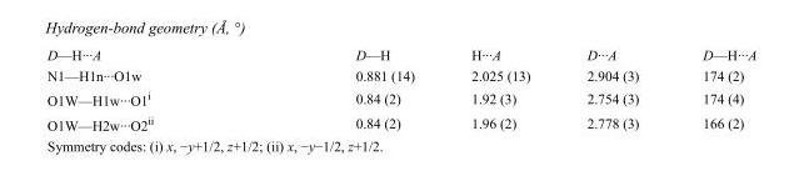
<table><tbody><tr><td>D—H···A</td><td>D—H</td><td>H···A</td><td>D···A</td><td>D—H···A</td></tr><tr><td>N1—H1n···O1w</td><td>0.881 (14)</td><td>2.025 (13)</td><td>2.904 (3)</td><td>174 (2)</td></tr><tr><td>O1W—H1w···O1<sup>i</sup></td><td>0.84 (2)</td><td>1.92 (3)</td><td>2.754 (3)</td><td>174 (4)</td></tr><tr><td>O1W—H2w···O2<sup>ii</sup></td><td>0.84 (2)</td><td>1.96 (2)</td><td>2.778 (3)</td><td>166 (2)</td></tr></tbody></table>